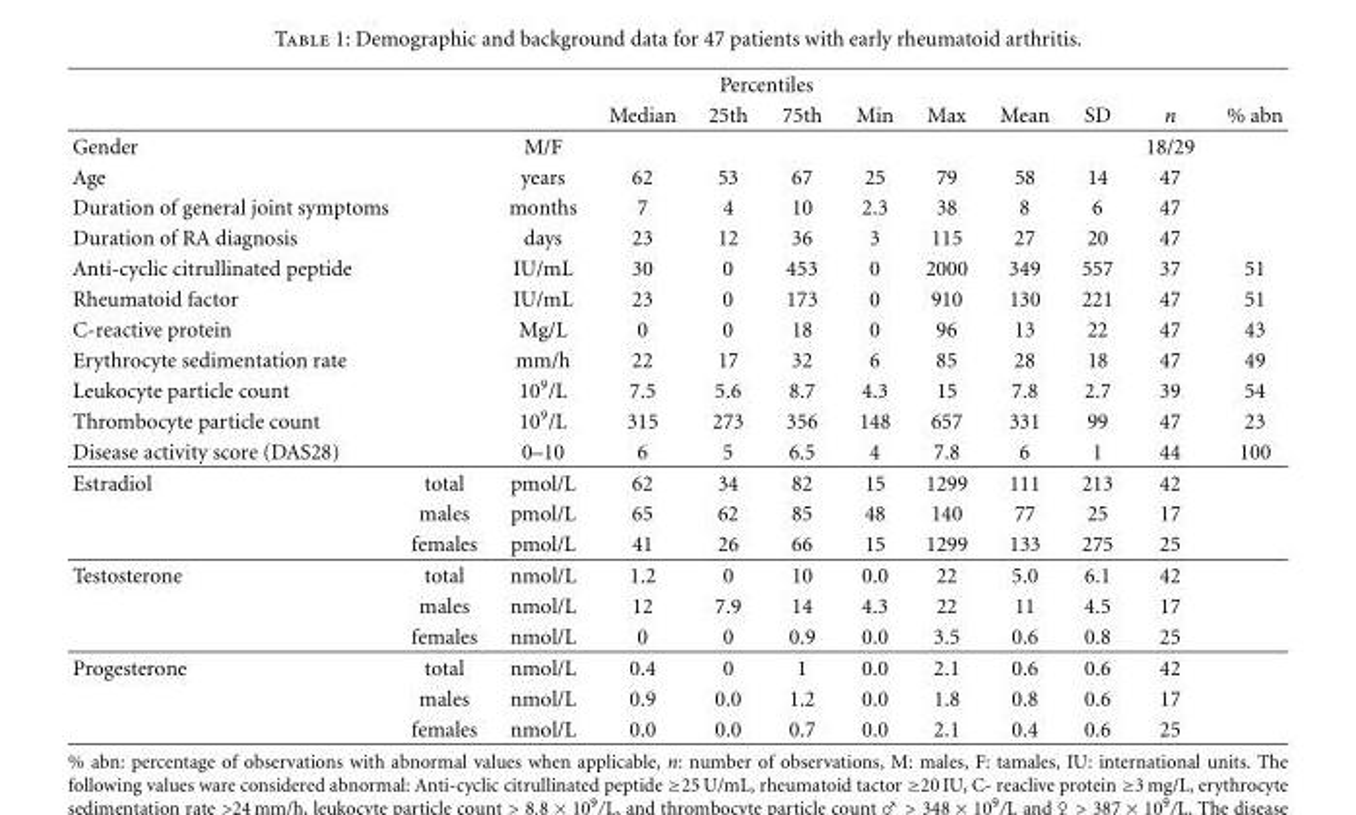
<table><thead><tr><td rowspan="2"></td><td rowspan="2"></td><td rowspan="2"></td><td rowspan="2">Median</td><td colspan="2">Percentiles</td><td rowspan="2">Min</td><td rowspan="2">Max</td><td rowspan="2">Mean</td><td rowspan="2">SD</td><td rowspan="2">n</td><td rowspan="2">% abn</td></tr><tr><td>25th</td><td>75th</td></tr></thead><tbody><tr><td>Gender</td><td></td><td>M/F</td><td></td><td></td><td></td><td></td><td></td><td></td><td></td><td>18/29</td><td></td></tr><tr><td>Age</td><td></td><td>years</td><td>62</td><td>53</td><td>67</td><td>25</td><td>79</td><td>58</td><td>14</td><td>47</td><td></td></tr><tr><td>Duration of general joint symptoms</td><td></td><td>months</td><td>7</td><td>4</td><td>10</td><td>2.3</td><td>38</td><td>8</td><td>6</td><td>47</td><td></td></tr><tr><td>Duration of RA diagnosis</td><td></td><td>days</td><td>23</td><td>12</td><td>36</td><td>3</td><td>115</td><td>27</td><td>20</td><td>47</td><td></td></tr><tr><td>Anti-cyclic citrullinated peptide</td><td></td><td>IU/mL</td><td>30</td><td>0</td><td>453</td><td>0</td><td>2000</td><td>349</td><td>557</td><td>37</td><td>51</td></tr><tr><td>Rheumatoid factor</td><td></td><td>IU/mL</td><td>23</td><td>0</td><td>173</td><td>0</td><td>910</td><td>130</td><td>221</td><td>47</td><td>51</td></tr><tr><td>C-reactive protein</td><td></td><td>Mg/L</td><td>0</td><td>0</td><td>18</td><td>0</td><td>96</td><td>13</td><td>22</td><td>47</td><td>43</td></tr><tr><td>Erythrocyte sedimentation rate</td><td></td><td>mm/h</td><td>22</td><td>17</td><td>32</td><td>6</td><td>85</td><td>28</td><td>18</td><td>47</td><td>49</td></tr><tr><td>Leukocyte particle count</td><td></td><td>10<sup>9</sup>/L</td><td>7.5</td><td>5.6</td><td>8.7</td><td>4.3</td><td>15</td><td>7.8</td><td>2.7</td><td>39</td><td>54</td></tr><tr><td>Thrombocyte particle count</td><td></td><td>10<sup>9</sup>/L</td><td>315</td><td>273</td><td>356</td><td>148</td><td>657</td><td>331</td><td>99</td><td>47</td><td>23</td></tr><tr><td>Disease activity score (DAS28)</td><td></td><td>0–10</td><td>6</td><td>5</td><td>6.5</td><td>4</td><td>7.8</td><td>6</td><td>1</td><td>44</td><td>100</td></tr><tr><td rowspan="3">Estradiol</td><td>total</td><td>pmol/L</td><td>62</td><td>34</td><td>82</td><td>15</td><td>1299</td><td>111</td><td>213</td><td>42</td><td></td></tr><tr><td>males</td><td>pmol/L</td><td>65</td><td>62</td><td>85</td><td>48</td><td>140</td><td>77</td><td>25</td><td>17</td><td></td></tr><tr><td>females</td><td>pmol/L</td><td>41</td><td>26</td><td>66</td><td>15</td><td>1299</td><td>133</td><td>275</td><td>25</td><td></td></tr><tr><td rowspan="3">Testosterone</td><td>total</td><td>nmol/L</td><td>1.2</td><td>0</td><td>10</td><td>0.0</td><td>22</td><td>5.0</td><td>6.1</td><td>42</td><td></td></tr><tr><td>males</td><td>nmol/L</td><td>12</td><td>7.9</td><td>14</td><td>4.3</td><td>22</td><td>11</td><td>4.5</td><td>17</td><td></td></tr><tr><td>females</td><td>nmol/L</td><td>0</td><td>0</td><td>0.9</td><td>0.0</td><td>3.5</td><td>0.6</td><td>0.8</td><td>25</td><td></td></tr><tr><td rowspan="3">Progesterone</td><td>total</td><td>nmol/L</td><td>0.4</td><td>0</td><td>1</td><td>0.0</td><td>2.1</td><td>0.6</td><td>0.6</td><td>42</td><td></td></tr><tr><td>males</td><td>nmol/L</td><td>0.9</td><td>0.0</td><td>1.2</td><td>0.0</td><td>1.8</td><td>0.8</td><td>0.6</td><td>17</td><td></td></tr><tr><td>females</td><td>nmol/L</td><td>0.0</td><td>0.0</td><td>0.7</td><td>0.0</td><td>2.1</td><td>0.4</td><td>0.6</td><td>25</td><td></td></tr></tbody></table>